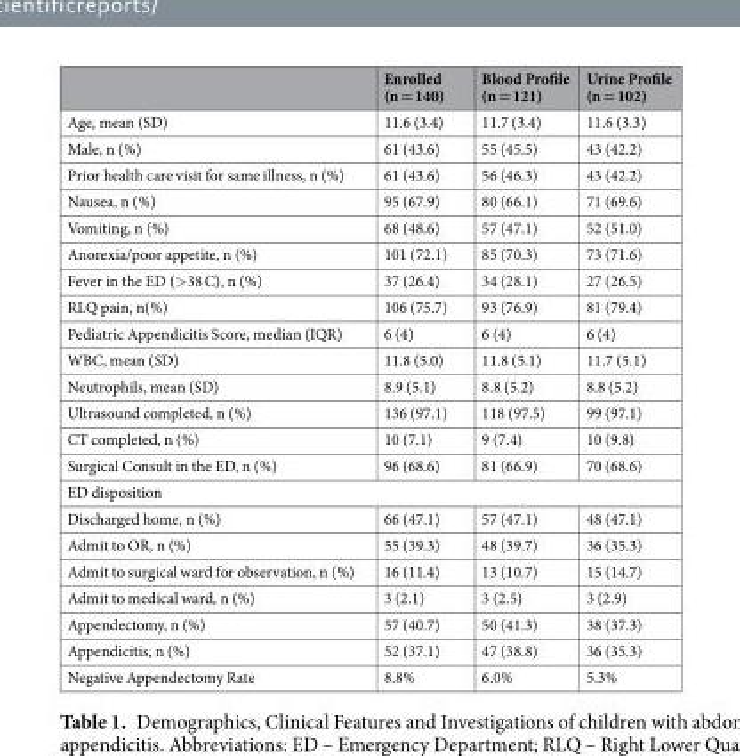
<table><thead><tr><td></td><td>Enrolled (n = 140)</td><td>Blood Profile (n = 121)</td><td>Urine Profile (n = 102)</td></tr></thead><tbody><tr><td>Age, mean (SD)</td><td>11.6 (3.4)</td><td>11.7 (3.4)</td><td>11.6 (3.3)</td></tr><tr><td>Male, n (%)</td><td>61 (43.6)</td><td>55 (45.5)</td><td>43 (42.2)</td></tr><tr><td>Prior health care visit for same illness, n (%)</td><td>61 (43.6)</td><td>56 (46.3)</td><td>43 (42.2)</td></tr><tr><td>Nausea, n (%)</td><td>95 (67.9)</td><td>80 (66.1)</td><td>71 (69.6)</td></tr><tr><td>Vomiting, n (%)</td><td>68 (48.6)</td><td>57 (47.1)</td><td>52 (51.0)</td></tr><tr><td>Anorexia/poor appetite, n (%)</td><td>101 (72.1)</td><td>85 (70.3)</td><td>73 (71.6)</td></tr><tr><td>Fever in the ED (&gt;38 C), n (%)</td><td>37 (26.4)</td><td>34 (28.1)</td><td>27 (26.5)</td></tr><tr><td>RLQ pain, n(%)</td><td>106 (75.7)</td><td>93 (76.9)</td><td>81 (79.4)</td></tr><tr><td>Pediatric Appendicitis Score, median (IQR)</td><td>6 (4)</td><td>6 (4)</td><td>6 (4)</td></tr><tr><td>WBC, mean (SD)</td><td>11.8 (5.0)</td><td>11.8 (5.1)</td><td>11.7 (5.1)</td></tr><tr><td>Neutrophils, mean (SD)</td><td>8.9 (5.1)</td><td>8.8 (5.2)</td><td>8.8 (5.2)</td></tr><tr><td>Ultrasound completed, n (%)</td><td>136 (97.1)</td><td>118 (97.5)</td><td>99 (97.1)</td></tr><tr><td>CT completed, n (%)</td><td>10 (7.1)</td><td>9 (7.4)</td><td>10 (9.8)</td></tr><tr><td>Surgical Consult in the ED, n (%)</td><td>96 (68.6)</td><td>81 (66.9)</td><td>70 (68.6)</td></tr><tr><td colspan="4">ED disposition</td></tr><tr><td>Discharged home, n (%)</td><td>66 (47.1)</td><td>57 (47.1)</td><td>48 (47.1)</td></tr><tr><td>Admit to OR, n (%)</td><td>55 (39.3)</td><td>48 (39.7)</td><td>36 (35.3)</td></tr><tr><td>Admit to surgical ward for observation, n (%)</td><td>16 (11.4)</td><td>13 (10.7)</td><td>15 (14.7)</td></tr><tr><td>Admit to medical ward, n (%)</td><td>3 (2.1)</td><td>3 (2.5)</td><td>3 (2.9)</td></tr><tr><td>Appendectomy, n (%)</td><td>57 (40.7)</td><td>50 (41.3)</td><td>38 (37.3)</td></tr><tr><td>Appendicitis, n (%)</td><td>52 (37.1)</td><td>47 (38.8)</td><td>36 (35.3)</td></tr><tr><td>Negative Appendectomy Rate</td><td>8.8%</td><td>6.0%</td><td>5.3%</td></tr></tbody></table>